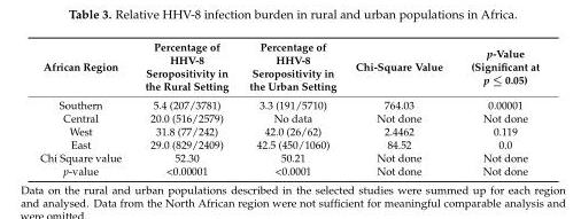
<table><thead><tr><td>African Region</td><td>Percentage of HHV-8 Seropositivity in the Rural Setting</td><td>Percentage of HHV-8 Seropositivity in the Urban Setting</td><td>Chi-Square Value</td><td>p-Value (Significant at p ≤ 0.05)</td></tr></thead><tbody><tr><td>Southern</td><td>5.4 (207/3781)</td><td>3.3 (191/5710)</td><td>764.03</td><td>0.00001</td></tr><tr><td>Central</td><td>20.0 (516/2579)</td><td>No data</td><td>Not done</td><td>Not done</td></tr><tr><td>West</td><td>31.8 (77/242)</td><td>42.0 (26/62)</td><td>2.4462</td><td>0.119</td></tr><tr><td>East</td><td>29.0 (829/2409)</td><td>42.5 (450/1060)</td><td>84.52</td><td>0.0</td></tr><tr><td>Chi Square value</td><td>52.30</td><td>50.21</td><td>Not done</td><td>Not done</td></tr><tr><td>p-value</td><td>&lt;0.00001</td><td>&lt;0.0001</td><td>Not done</td><td>Not done</td></tr></tbody></table>